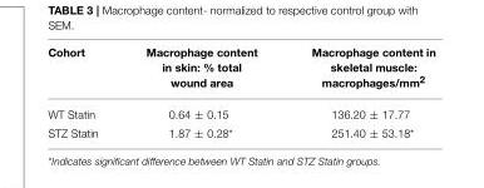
<table><thead><tr><td>Cohort</td><td>Macrophage content in skin: % total wound area</td><td>Macrophage content in skeletal muscle: macrophages/mm<sup>2</sup></td></tr></thead><tbody><tr><td>WT Statin</td><td>0.64 ± 0.15</td><td>136.20 ± 17.77</td></tr><tr><td>STZ Statin</td><td>1.87 ± 0.28*</td><td>251.40 ± 53.18*</td></tr></tbody></table>